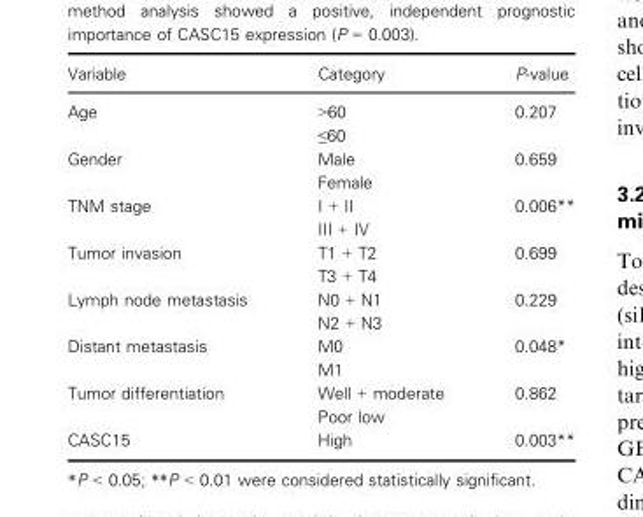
<table><thead><tr><td>Variable</td><td>Category</td><td>P-value</td></tr></thead><tbody><tr><td rowspan="2">Age</td><td>&gt;60</td><td rowspan="2">0.207</td></tr><tr><td>≤60</td></tr><tr><td rowspan="2">Gender</td><td>Male</td><td rowspan="2">0.659</td></tr><tr><td>Female</td></tr><tr><td rowspan="2">TNM stage</td><td>I + II</td><td rowspan="2">0.006**</td></tr><tr><td>III + IV</td></tr><tr><td rowspan="2">Tumor invasion</td><td>T1 + T2</td><td rowspan="2">0.699</td></tr><tr><td>T3 + T4</td></tr><tr><td rowspan="2">Lymph node metastasis</td><td>N0 + N1</td><td rowspan="2">0.229</td></tr><tr><td>N2 + N3</td></tr><tr><td rowspan="2">Distant metastasis</td><td>M0</td><td rowspan="2">0.048*</td></tr><tr><td>M1</td></tr><tr><td rowspan="2">Tumor differentiation</td><td>Well + moderate</td><td rowspan="2">0.862</td></tr><tr><td>Poor low</td></tr><tr><td>CASC15</td><td>High</td><td>0.003**</td></tr></tbody></table>